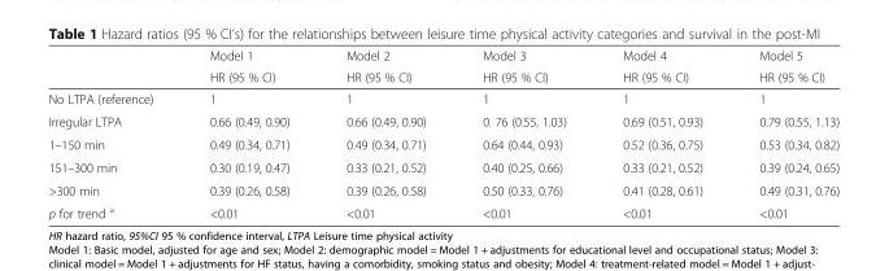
<table><thead><tr><td rowspan="2"></td><td rowspan="2">Model 1 HR (95 % CI)</td><td rowspan="2">Model 2 HR (95 % CI)</td><td rowspan="2">Model 3 HR (95 % CI)</td><td rowspan="2">Model 4 HR (95 % CI)</td><td rowspan="2">Model 5 HR (95 % CI)</td></tr><tr></tr></thead><tbody><tr><td>No LTPA (reference)</td><td>1</td><td>1</td><td>1</td><td>1</td><td>1</td></tr><tr><td>Irregular LTPA</td><td>0.66 (0.49, 0.90)</td><td>0.66 (0.49, 0.90)</td><td>0. 76 (0.55, 1.03)</td><td>0.69 (0.51, 0.93)</td><td>0.79 (0.55, 1.13)</td></tr><tr><td>1–150 min</td><td>0.49 (0.34, 0.71)</td><td>0.49 (0.34, 0.71)</td><td>0.64 (0.44, 0.93)</td><td>0.52 (0.36, 0.75)</td><td>0.53 (0.34, 0.82)</td></tr><tr><td>151–300 min</td><td>0.30 (0.19, 0.47)</td><td>0.33 (0.21, 0.52)</td><td>0.40 (0.25, 0.66)</td><td>0.33 (0.21, 0.52)</td><td>0.39 (0.24, 0.65)</td></tr><tr><td>&gt;300 min</td><td>0.39 (0.26, 0.58)</td><td>0.39 (0.26, 0.58)</td><td>0.50 (0.33, 0.76)</td><td>0.41 (0.28, 0.61)</td><td>0.49 (0.31, 0.76)</td></tr><tr><td>p for trend <sup>a</sup></td><td>&lt;0.01</td><td>&lt;0.01</td><td>&lt;0.01</td><td>&lt;0.01</td><td>&lt;0.01</td></tr></tbody></table>